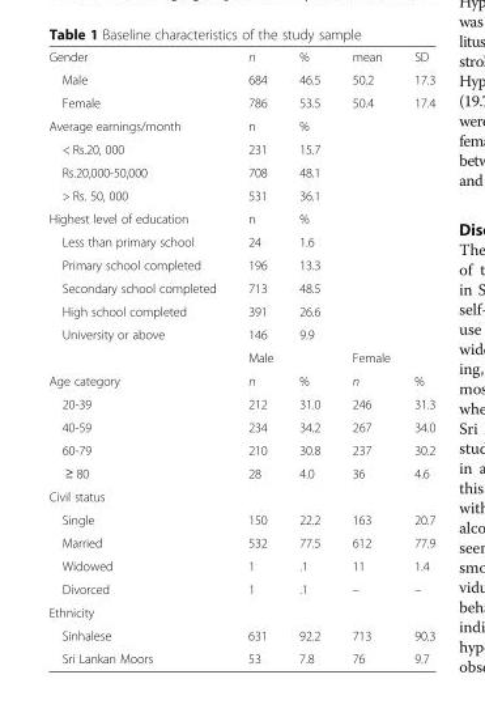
<table><tbody><tr><td>Gender</td><td>n</td><td>%</td><td>mean</td><td>SD</td></tr><tr><td>Male</td><td>684</td><td>46.5</td><td>50.2</td><td>17.3</td></tr><tr><td>Female</td><td>786</td><td>53.5</td><td>50.4</td><td>17.4</td></tr><tr><td>Average earnings/month</td><td>n</td><td>%</td><td></td><td></td></tr><tr><td>&lt; Rs.20, 000</td><td>231</td><td>15.7</td><td></td><td></td></tr><tr><td>Rs.20,000-50,000</td><td>708</td><td>48.1</td><td></td><td></td></tr><tr><td>&gt; Rs. 50, 000</td><td>531</td><td>36.1</td><td></td><td></td></tr><tr><td>Highest level of education</td><td>n</td><td>%</td><td></td><td></td></tr><tr><td>Less than primary school</td><td>24</td><td>1.6</td><td></td><td></td></tr><tr><td>Primary school completed</td><td>196</td><td>13.3</td><td></td><td></td></tr><tr><td>Secondary school completed</td><td>713</td><td>48.5</td><td></td><td></td></tr><tr><td>High school completed</td><td>391</td><td>26.6</td><td></td><td></td></tr><tr><td rowspan="2">University or above</td><td>146</td><td>9.9</td><td></td><td></td></tr><tr><td colspan="2">Male</td><td colspan="2">Female</td></tr><tr><td>Age category</td><td>n</td><td>%</td><td>n</td><td>%</td></tr><tr><td>20-39</td><td>212</td><td>31.0</td><td>246</td><td>31.3</td></tr><tr><td>40-59</td><td>234</td><td>34.2</td><td>267</td><td>34.0</td></tr><tr><td>60-79</td><td>210</td><td>30.8</td><td>237</td><td>30.2</td></tr><tr><td>≥ 80</td><td>28</td><td>4.0</td><td>36</td><td>4.6</td></tr><tr><td colspan="5">Civil status</td></tr><tr><td>Single</td><td>150</td><td>22.2</td><td>163</td><td>20.7</td></tr><tr><td>Married</td><td>532</td><td>77.5</td><td>612</td><td>77.9</td></tr><tr><td>Widowed</td><td>1</td><td>.1</td><td>11</td><td>1.4</td></tr><tr><td>Divorced</td><td>1</td><td>.1</td><td>–</td><td>–</td></tr><tr><td colspan="5">Ethnicity</td></tr><tr><td>Sinhalese</td><td>631</td><td>92.2</td><td>713</td><td>90.3</td></tr><tr><td>Sri Lankan Moors</td><td>53</td><td>7.8</td><td>76</td><td>9.7</td></tr></tbody></table>